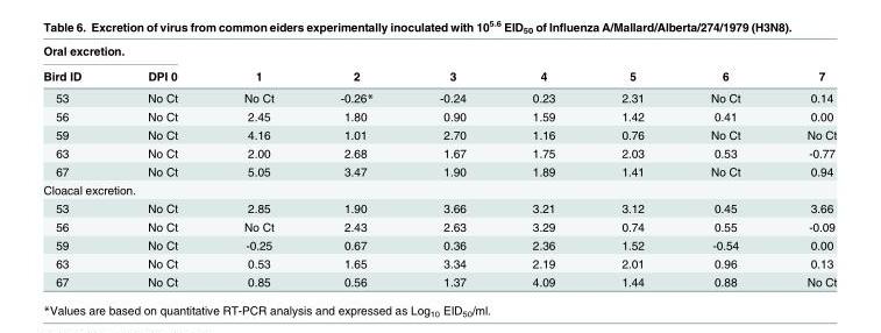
<table><thead><tr><td colspan="2">Oral excretion.</td><td rowspan="2">1</td><td rowspan="2">2</td><td rowspan="2">3</td><td rowspan="2">4</td><td rowspan="2">5</td><td rowspan="2">6</td><td rowspan="2">7</td></tr><tr><td>Bird ID</td><td>DPI 0</td></tr></thead><tbody><tr><td>53</td><td>No Ct</td><td>No Ct</td><td>-0.26*</td><td>-0.24</td><td>0.23</td><td>2.31</td><td>No Ct</td><td>0.14</td></tr><tr><td>56</td><td>No Ct</td><td>2.45</td><td>1.80</td><td>0.90</td><td>1.59</td><td>1.42</td><td>0.41</td><td>0.00</td></tr><tr><td>59</td><td>No Ct</td><td>4.16</td><td>1.01</td><td>2.70</td><td>1.16</td><td>0.76</td><td>No Ct</td><td>No Ct</td></tr><tr><td>63</td><td>No Ct</td><td>2.00</td><td>2.68</td><td>1.67</td><td>1.75</td><td>2.03</td><td>0.53</td><td>-0.77</td></tr><tr><td>67</td><td>No Ct</td><td>5.05</td><td>3.47</td><td>1.90</td><td>1.89</td><td>1.41</td><td>No Ct</td><td>0.94</td></tr><tr><td colspan="9">Cloacal excretion.</td></tr><tr><td>53</td><td>No Ct</td><td>2.85</td><td>1.90</td><td>3.66</td><td>3.21</td><td>3.12</td><td>0.45</td><td>3.66</td></tr><tr><td>56</td><td>No Ct</td><td>No Ct</td><td>2.43</td><td>2.63</td><td>3.29</td><td>0.74</td><td>0.55</td><td>-0.09</td></tr><tr><td>59</td><td>No Ct</td><td>-0.25</td><td>0.67</td><td>0.36</td><td>2.36</td><td>1.52</td><td>-0.54</td><td>0.00</td></tr><tr><td>63</td><td>No Ct</td><td>0.53</td><td>1.65</td><td>3.34</td><td>2.19</td><td>2.01</td><td>0.96</td><td>0.13</td></tr><tr><td>67</td><td>No Ct</td><td>0.85</td><td>0.56</td><td>1.37</td><td>4.09</td><td>1.44</td><td>0.88</td><td>No Ct</td></tr></tbody></table>